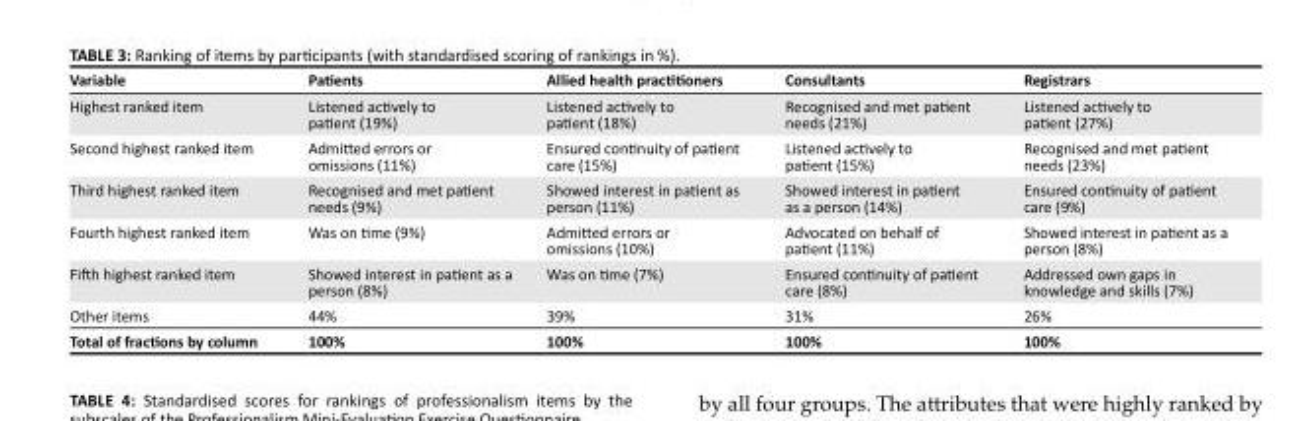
<table><thead><tr><td>Variable</td><td>Patients</td><td>Allied health practitioners</td><td>Consultants</td><td>Registrars</td></tr></thead><tbody><tr><td>Highest ranked item</td><td>Listened actively to patient (19%)</td><td>Listened actively to patient (18%)</td><td>Recognised and met patient needs (21%)</td><td>Listened actively to patient (27%)</td></tr><tr><td>Second highest ranked item</td><td>Admitted errors or omissions (11%)</td><td>Ensured continuity of patient care (15%)</td><td>Listened actively to patient (15%)</td><td>Recognised and met patient needs (23%)</td></tr><tr><td>Third highest ranked item</td><td>Recognised and met patient needs (9%)</td><td>Showed interest in patient as person (11%)</td><td>Showed interest in patient as a person (14%)</td><td>Ensured continuity of patient care (9%)</td></tr><tr><td>Fourth highest ranked item</td><td>Was on time (9%)</td><td>Admitted errors or omissions (10%)</td><td>Advocated on behalf of patient (11%)</td><td>Showed interest in patient as a person (8%)</td></tr><tr><td>Fifth highest ranked item</td><td>Showed interest in patient as a person (8%)</td><td>Was on time (7%)</td><td>Ensured continuity of patient care (8%)</td><td>Addressed own gaps in knowledge and skills (7%)</td></tr><tr><td>Other items</td><td>44%</td><td>39%</td><td>31%</td><td>26%</td></tr><tr><td>Total of fractions by column</td><td>100%</td><td>100%</td><td>100%</td><td>100%</td></tr></tbody></table>